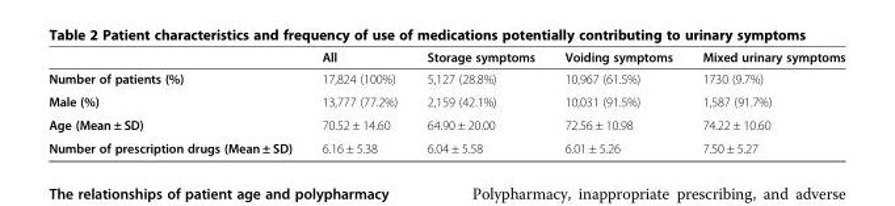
<table><thead><tr><td></td><td>All</td><td>Storage symptoms</td><td>Voiding symptoms</td><td>Mixed urinary symptoms</td></tr></thead><tbody><tr><td>Number of patients (%)</td><td>17,824 (100%)</td><td>5,127 (28.8%)</td><td>10,967 (61.5%)</td><td>1730 (9.7%)</td></tr><tr><td>Male (%)</td><td>13,777 (77.2%)</td><td>2,159 (42.1%)</td><td>10,031 (91.5%)</td><td>1,587 (91.7%)</td></tr><tr><td>Age (Mean ± SD)</td><td>70.52 ± 14.60</td><td>64.90 ± 20.00</td><td>72.56 ± 10.98</td><td>74.22 ± 10.60</td></tr><tr><td>Number of prescription drugs (Mean ± SD)</td><td>6.16 ± 5.38</td><td>6.04 ± 5.58</td><td>6.01 ± 5.26</td><td>7.50 ± 5.27</td></tr></tbody></table>